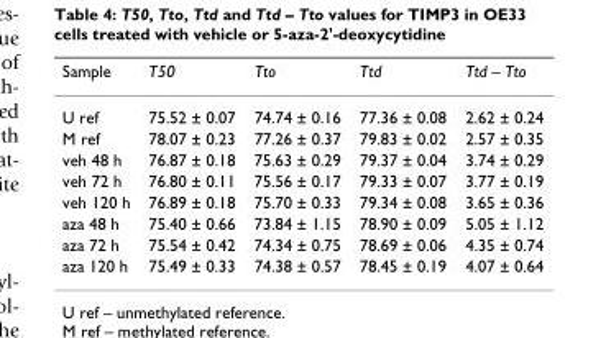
<table><thead><tr><td>Sample</td><td>T50</td><td>Tto</td><td>Ttd</td><td>Ttd – Tto</td></tr></thead><tbody><tr><td>U ref</td><td>75.52 ± 0.07</td><td>74.74 ± 0.16</td><td>77.36 ± 0.08</td><td>2.62 ± 0.24</td></tr><tr><td>M ref</td><td>78.07 ± 0.23</td><td>77.26 ± 0.37</td><td>79.83 ± 0.02</td><td>2.57 ± 0.35</td></tr><tr><td>veh 48 h</td><td>76.87 ± 0.18</td><td>75.63 ± 0.29</td><td>79.37 ± 0.04</td><td>3.74 ± 0.29</td></tr><tr><td>veh 72 h</td><td>76.80 ± 0.11</td><td>75.56 ± 0.17</td><td>79.33 ± 0.07</td><td>3.77 ± 0.19</td></tr><tr><td>veh 120 h</td><td>76.89 ± 0.18</td><td>75.70 ± 0.33</td><td>79.34 ± 0.08</td><td>3.65 ± 0.36</td></tr><tr><td>aza 48 h</td><td>75.40 ± 0.66</td><td>73.84 ± 1.15</td><td>78.90 ± 0.09</td><td>5.05 ± 1.12</td></tr><tr><td>aza 72 h</td><td>75.54 ± 0.42</td><td>74.34 ± 0.75</td><td>78.69 ± 0.06</td><td>4.35 ± 0.74</td></tr><tr><td>aza 120 h</td><td>75.49 ± 0.33</td><td>74.38 ± 0.57</td><td>78.45 ± 0.19</td><td>4.07 ± 0.64</td></tr></tbody></table>